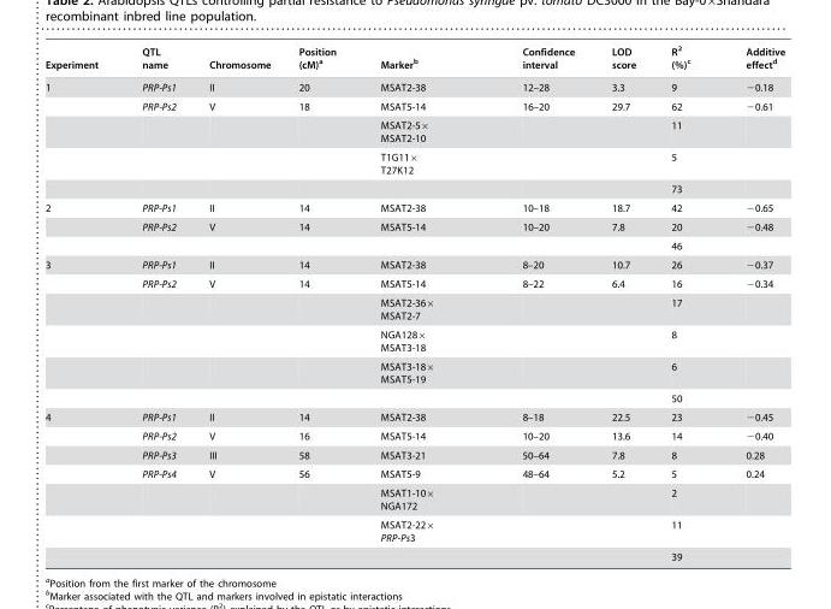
<table><thead><tr><td>Experiment</td><td>QTL name</td><td>Chromosome</td><td>Position (cM)<sup>a</sup></td><td>Marker<sup>b</sup></td><td>Confidence interval</td><td>LOD score</td><td>R<sup>2</sup> (%)<sup>c</sup></td><td>Additive effect<sup>d</sup></td></tr></thead><tbody><tr><td rowspan="5">1</td><td>PRP-Ps1</td><td>II</td><td>20</td><td>MSAT2-38</td><td>12–28</td><td>3.3</td><td>9</td><td>−0.18</td></tr><tr><td>PRP-Ps2</td><td>V</td><td>18</td><td>MSAT5-14</td><td>16–20</td><td>29.7</td><td>62</td><td>−0.61</td></tr><tr><td></td><td></td><td></td><td>MSAT2-5× MSAT2-10</td><td></td><td></td><td>11</td><td></td></tr><tr><td></td><td></td><td></td><td>T1G11× T27K12</td><td></td><td></td><td>5</td><td></td></tr><tr><td></td><td></td><td></td><td></td><td></td><td></td><td>73</td><td></td></tr><tr><td rowspan="3">2</td><td>PRP-Ps1</td><td>II</td><td>14</td><td>MSAT2-38</td><td>10–18</td><td>18.7</td><td>42</td><td>−0.65</td></tr><tr><td>PRP-Ps2</td><td>V</td><td>14</td><td>MSAT5-14</td><td>10–20</td><td>7.8</td><td>20</td><td>−0.48</td></tr><tr><td></td><td></td><td></td><td></td><td></td><td></td><td>46</td><td></td></tr><tr><td rowspan="6">3</td><td>PRP-Ps1</td><td>II</td><td>14</td><td>MSAT2-38</td><td>8–20</td><td>10.7</td><td>26</td><td>−0.37</td></tr><tr><td>PRP-Ps2</td><td>V</td><td>14</td><td>MSAT5-14</td><td>8–22</td><td>6.4</td><td>16</td><td>−0.34</td></tr><tr><td></td><td></td><td></td><td>MSAT2-36× MSAT2-7</td><td></td><td></td><td>17</td><td></td></tr><tr><td></td><td></td><td></td><td>NGA128× MSAT3-18</td><td></td><td></td><td>8</td><td></td></tr><tr><td></td><td></td><td></td><td>MSAT3-18× MSAT5-19</td><td></td><td></td><td>6</td><td></td></tr><tr><td></td><td></td><td></td><td></td><td></td><td></td><td>50</td><td></td></tr><tr><td rowspan="7">4</td><td>PRP-Ps1</td><td>II</td><td>14</td><td>MSAT2-38</td><td>8–18</td><td>22.5</td><td>23</td><td>−0.45</td></tr><tr><td>PRP-Ps2</td><td>V</td><td>16</td><td>MSAT5-14</td><td>10–20</td><td>13.6</td><td>14</td><td>−0.40</td></tr><tr><td>PRP-Ps3</td><td>III</td><td>58</td><td>MSAT3-21</td><td>50–64</td><td>7.8</td><td>8</td><td>0.28</td></tr><tr><td>PRP-Ps4</td><td>V</td><td>56</td><td>MSAT5-9</td><td>48–64</td><td>5.2</td><td>5</td><td>0.24</td></tr><tr><td></td><td></td><td></td><td>MSAT1-10× NGA172</td><td></td><td></td><td>2</td><td></td></tr><tr><td></td><td></td><td></td><td>MSAT2-22× PRP-Ps3</td><td></td><td></td><td>11</td><td></td></tr><tr><td></td><td></td><td></td><td></td><td></td><td></td><td>39</td><td></td></tr></tbody></table>